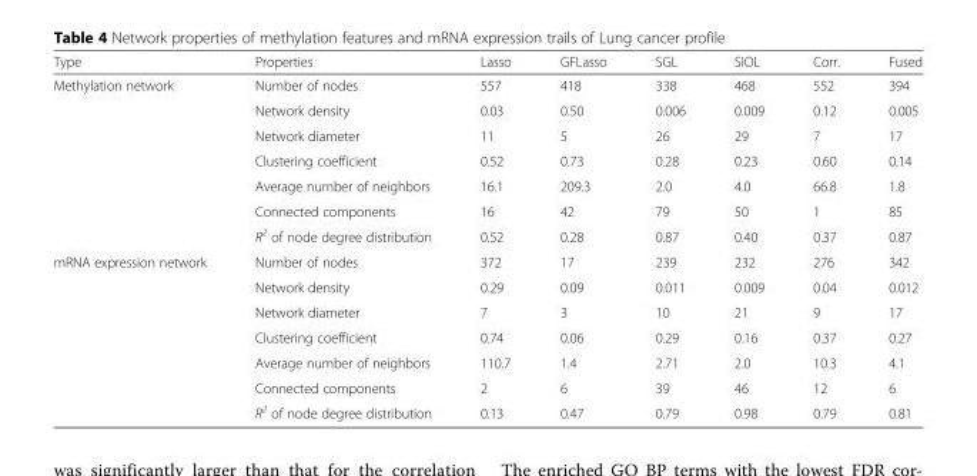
<table><thead><tr><td>Type</td><td>Properties</td><td>Lasso</td><td>GFLasso</td><td>SGL</td><td>SIOL</td><td>Corr.</td><td>Fused</td></tr></thead><tbody><tr><td rowspan="7">Methylation network</td><td>Number of nodes</td><td>557</td><td>418</td><td>338</td><td>468</td><td>552</td><td>394</td></tr><tr><td>Network density</td><td>0.03</td><td>0.50</td><td>0.006</td><td>0.009</td><td>0.12</td><td>0.005</td></tr><tr><td>Network diameter</td><td>11</td><td>5</td><td>26</td><td>29</td><td>7</td><td>17</td></tr><tr><td>Clustering coefficient</td><td>0.52</td><td>0.73</td><td>0.28</td><td>0.23</td><td>0.60</td><td>0.14</td></tr><tr><td>Average number of neighbors</td><td>16.1</td><td>209.3</td><td>2.0</td><td>4.0</td><td>66.8</td><td>1.8</td></tr><tr><td>Connected components</td><td>16</td><td>42</td><td>79</td><td>50</td><td>1</td><td>85</td></tr><tr><td>R<sup>2</sup> of node degree distribution</td><td>0.52</td><td>0.28</td><td>0.87</td><td>0.40</td><td>0.37</td><td>0.87</td></tr><tr><td rowspan="7">mRNA expression network</td><td>Number of nodes</td><td>372</td><td>17</td><td>239</td><td>232</td><td>276</td><td>342</td></tr><tr><td>Network density</td><td>0.29</td><td>0.09</td><td>0.011</td><td>0.009</td><td>0.04</td><td>0.012</td></tr><tr><td>Network diameter</td><td>7</td><td>3</td><td>10</td><td>21</td><td>9</td><td>17</td></tr><tr><td>Clustering coefficient</td><td>0.74</td><td>0.06</td><td>0.29</td><td>0.16</td><td>0.37</td><td>0.27</td></tr><tr><td>Average number of neighbors</td><td>110.7</td><td>1.4</td><td>2.71</td><td>2.0</td><td>10.3</td><td>4.1</td></tr><tr><td>Connected components</td><td>2</td><td>6</td><td>39</td><td>46</td><td>12</td><td>6</td></tr><tr><td>R<sup>2</sup> of node degree distribution</td><td>0.13</td><td>0.47</td><td>0.79</td><td>0.98</td><td>0.79</td><td>0.81</td></tr></tbody></table>